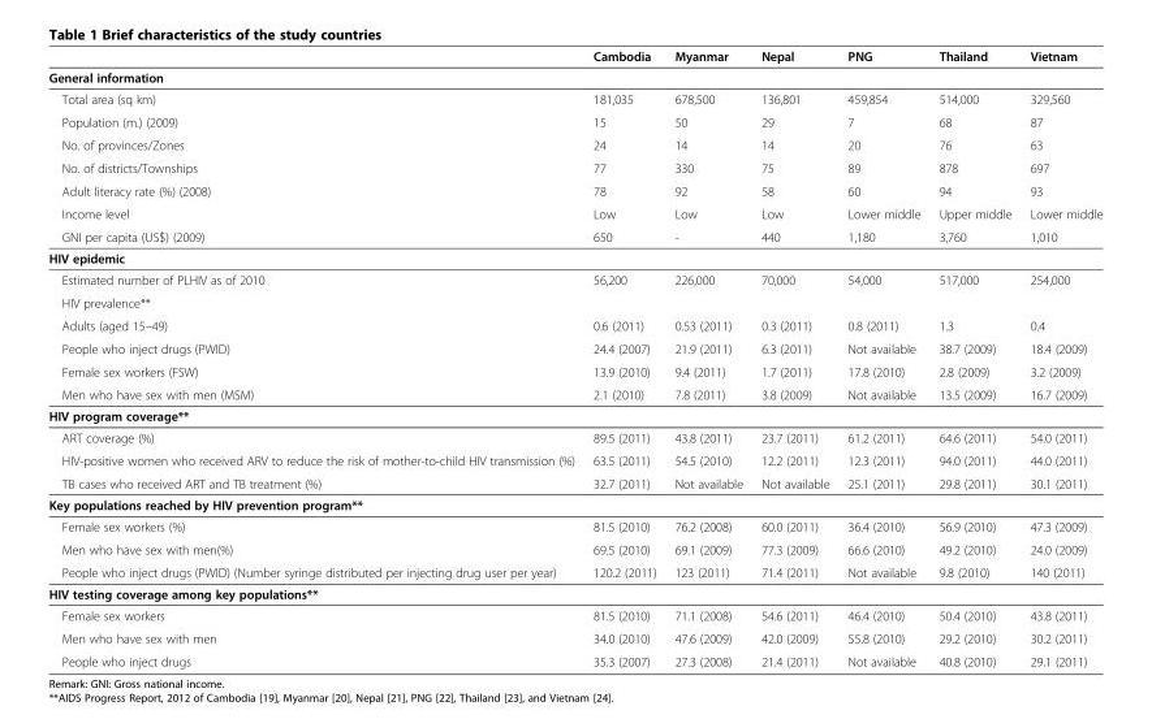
<table><thead><tr><td></td><td>Cambodia</td><td>Myanmar</td><td>Nepal</td><td>PNG</td><td>Thailand</td><td>Vietnam</td></tr></thead><tbody><tr><td colspan="7">General information</td></tr><tr><td>Total area (sq km)</td><td>181,035</td><td>678,500</td><td>136,801</td><td>459,854</td><td>514,000</td><td>329,560</td></tr><tr><td>Population (m.) (2009)</td><td>15</td><td>50</td><td>29</td><td>7</td><td>68</td><td>87</td></tr><tr><td>No. of provinces/Zones</td><td>24</td><td>14</td><td>14</td><td>20</td><td>76</td><td>63</td></tr><tr><td>No. of districts/Townships</td><td>77</td><td>330</td><td>75</td><td>89</td><td>878</td><td>697</td></tr><tr><td>Adult literacy rate (%) (2008)</td><td>78</td><td>92</td><td>58</td><td>60</td><td>94</td><td>93</td></tr><tr><td>Income level</td><td>Low</td><td>Low</td><td>Low</td><td>Lower middle</td><td>Upper middle</td><td>Lower middle</td></tr><tr><td>GNI per capita (US$) (2009)</td><td>650</td><td>-</td><td>440</td><td>1,180</td><td>3,760</td><td>1,010</td></tr><tr><td colspan="7">HIV epidemic</td></tr><tr><td>Estimated number of PLHIV as of 2010</td><td>56,200</td><td>226,000</td><td>70,000</td><td>54,000</td><td>517,000</td><td>254,000</td></tr><tr><td colspan="7">HIV prevalence**</td></tr><tr><td>Adults (aged 15–49)</td><td>0.6 (2011)</td><td>0.53 (2011)</td><td>0.3 (2011)</td><td>0.8 (2011)</td><td>1.3</td><td>0.4</td></tr><tr><td>People who inject drugs (PWID)</td><td>24.4 (2007)</td><td>21.9 (2011)</td><td>6.3 (2011)</td><td>Not available</td><td>38.7 (2009)</td><td>18.4 (2009)</td></tr><tr><td>Female sex workers (FSW)</td><td>13.9 (2010)</td><td>9.4 (2011)</td><td>1.7 (2011)</td><td>17.8 (2010)</td><td>2.8 (2009)</td><td>3.2 (2009)</td></tr><tr><td>Men who have sex with men (MSM)</td><td>2.1 (2010)</td><td>7.8 (2011)</td><td>3.8 (2009)</td><td>Not available</td><td>13.5 (2009)</td><td>16.7 (2009)</td></tr><tr><td colspan="7">HIV program coverage**</td></tr><tr><td>ART coverage (%)</td><td>89.5 (2011)</td><td>43.8 (2011)</td><td>23.7 (2011)</td><td>61.2 (2011)</td><td>64.6 (2011)</td><td>54.0 (2011)</td></tr><tr><td>HIV-positive women who received ARV to reduce the risk of mother-to-child HIV transmission (%)</td><td>63.5 (2011)</td><td>54.5 (2010)</td><td>12.2 (2011)</td><td>12.3 (2011)</td><td>94.0 (2011)</td><td>44.0 (2011)</td></tr><tr><td>TB cases who received ART and TB treatment (%)</td><td>32.7 (2011)</td><td>Not available</td><td>Not available</td><td>25.1 (2011)</td><td>29.8 (2011)</td><td>30.1 (2011)</td></tr><tr><td colspan="7">Key populations reached by HIV prevention program**</td></tr><tr><td>Female sex workers (%)</td><td>81.5 (2010)</td><td>76.2 (2008)</td><td>60.0 (2011)</td><td>36.4 (2010)</td><td>56.9 (2010)</td><td>47.3 (2009)</td></tr><tr><td>Men who have sex with men(%)</td><td>69.5 (2010)</td><td>69.1 (2009)</td><td>77.3 (2009)</td><td>66.6 (2010)</td><td>49.2 (2010)</td><td>24.0 (2009)</td></tr><tr><td>People who inject drugs (PWID) (Number syringe distributed per injecting drug user per year)</td><td>120.2 (2011)</td><td>123 (2011)</td><td>71.4 (2011)</td><td>Not available</td><td>9.8 (2010)</td><td>140 (2011)</td></tr><tr><td colspan="7">HIV testing coverage among key populations**</td></tr><tr><td>Female sex workers</td><td>81.5 (2010)</td><td>71.1 (2008)</td><td>54.6 (2011)</td><td>46.4 (2010)</td><td>50.4 (2010)</td><td>43.8 (2011)</td></tr><tr><td>Men who have sex with men</td><td>34.0 (2010)</td><td>47.6 (2009)</td><td>42.0 (2009)</td><td>55.8 (2010)</td><td>29.2 (2010)</td><td>30.2 (2011)</td></tr><tr><td>People who inject drugs</td><td>35.3 (2007)</td><td>27.3 (2008)</td><td>21.4 (2011)</td><td>Not available</td><td>40.8 (2010)</td><td>29.1 (2011)</td></tr></tbody></table>